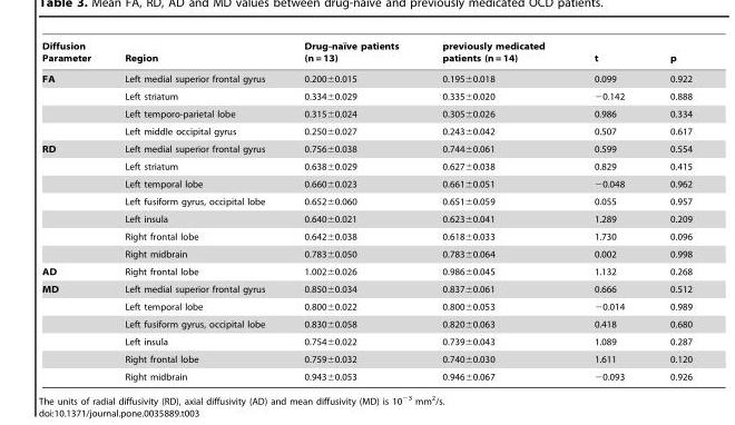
<table><thead><tr><td>Diffusion Parameter</td><td>Region</td><td>Drug-naı¨ve patients (n = 13)</td><td>previously medicated patients (n = 14)</td><td>t</td><td>p</td></tr></thead><tbody><tr><td rowspan="4">FA</td><td>Left medial superior frontal gyrus</td><td>0.200±0.015</td><td>0.195±0.018</td><td>0.099</td><td>0.922</td></tr><tr><td>Left striatum</td><td>0.334±0.029</td><td>0.335±0.020</td><td>−0.142</td><td>0.888</td></tr><tr><td>Left temporo-parietal lobe</td><td>0.315±0.024</td><td>0.305±0.026</td><td>0.986</td><td>0.334</td></tr><tr><td>Left middle occipital gyrus</td><td>0.250±0.027</td><td>0.243±0.042</td><td>0.507</td><td>0.617</td></tr><tr><td rowspan="7">RD</td><td>Left medial superior frontal gyrus</td><td>0.756±0.038</td><td>0.744±0.061</td><td>0.599</td><td>0.554</td></tr><tr><td>Left striatum</td><td>0.638±0.029</td><td>0.627±0.038</td><td>0.829</td><td>0.415</td></tr><tr><td>Left temporal lobe</td><td>0.660±0.023</td><td>0.661±0.051</td><td>−0.048</td><td>0.962</td></tr><tr><td>Left fusiform gyrus, occipital lobe</td><td>0.652±0.060</td><td>0.651±0.059</td><td>0.055</td><td>0.957</td></tr><tr><td>Left insula</td><td>0.640±0.021</td><td>0.623±0.041</td><td>1.289</td><td>0.209</td></tr><tr><td>Right frontal lobe</td><td>0.642±0.038</td><td>0.618±0.033</td><td>1.730</td><td>0.096</td></tr><tr><td>Right midbrain</td><td>0.783±0.050</td><td>0.783±0.064</td><td>0.002</td><td>0.998</td></tr><tr><td>AD</td><td>Right frontal lobe</td><td>1.002±0.026</td><td>0.986±0.045</td><td>1.132</td><td>0.268</td></tr><tr><td rowspan="6">MD</td><td>Left medial superior frontal gyrus</td><td>0.850±0.034</td><td>0.837±0.061</td><td>0.666</td><td>0.512</td></tr><tr><td>Left temporal lobe</td><td>0.800±0.022</td><td>0.800±0.053</td><td>−0.014</td><td>0.989</td></tr><tr><td>Left fusiform gyrus, occipital lobe</td><td>0.830±0.058</td><td>0.820±0.063</td><td>0.418</td><td>0.680</td></tr><tr><td>Left insula</td><td>0.754±0.022</td><td>0.739±0.043</td><td>1.089</td><td>0.287</td></tr><tr><td>Right frontal lobe</td><td>0.759±0.032</td><td>0.740±0.030</td><td>1.611</td><td>0.120</td></tr><tr><td>Right midbrain</td><td>0.943±0.053</td><td>0.946±0.067</td><td>−0.093</td><td>0.926</td></tr></tbody></table>